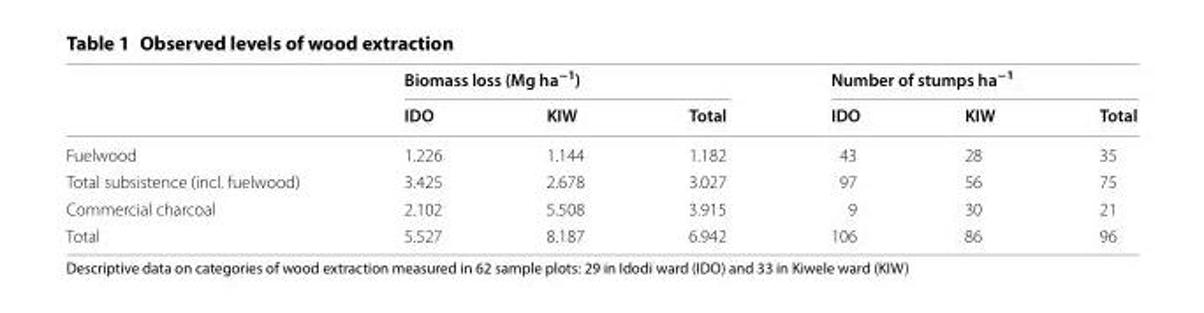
<table><thead><tr><td rowspan="2"></td><td colspan="3">Biomass loss (Mg ha<sup>−1</sup>)</td><td colspan="3">Number of stumps ha<sup>−1</sup></td></tr><tr><td>IDO</td><td>KIW</td><td>Total</td><td>IDO</td><td>KIW</td><td>Total</td></tr></thead><tbody><tr><td>Fuelwood</td><td>1.226</td><td>1.144</td><td>1.182</td><td>43</td><td>28</td><td>35</td></tr><tr><td>Total subsistence (incl. fuelwood)</td><td>3.425</td><td>2.678</td><td>3.027</td><td>97</td><td>56</td><td>75</td></tr><tr><td>Commercial charcoal</td><td>2.102</td><td>5.508</td><td>3.915</td><td>9</td><td>30</td><td>21</td></tr><tr><td>Total</td><td>5.527</td><td>8.187</td><td>6.942</td><td>106</td><td>86</td><td>96</td></tr></tbody></table>